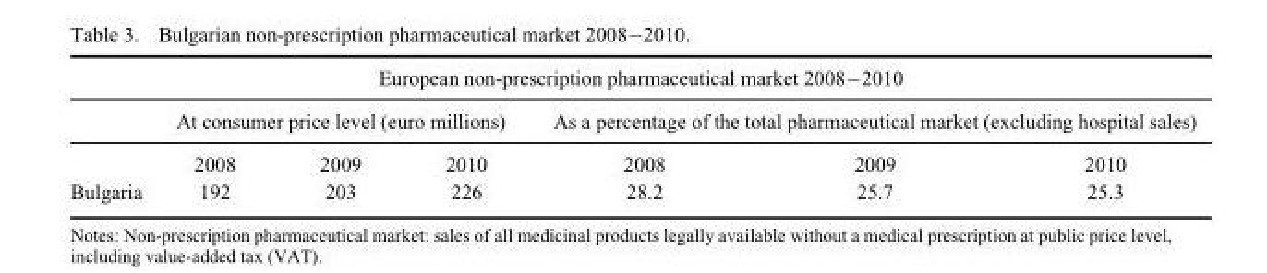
<table><thead><tr><td colspan="7">European non-prescription pharmaceutical market 2008–2010</td></tr><tr><td rowspan="2"></td><td colspan="3">At consumer price level (euro millions)</td><td colspan="3">As a percentage of the total pharmaceutical market (excluding hospital sales)</td></tr><tr><td>2008</td><td>2009</td><td>2010</td><td>2008</td><td>2009</td><td>2010</td></tr></thead><tbody><tr><td>Bulgaria</td><td>192</td><td>203</td><td>226</td><td>28.2</td><td>25.7</td><td>25.3</td></tr></tbody></table>